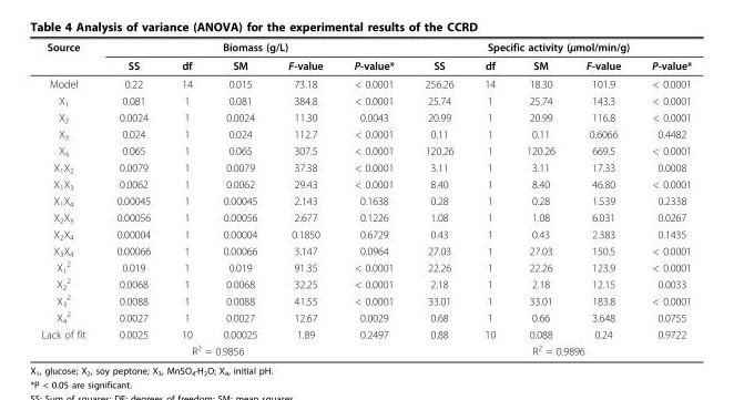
<table><tbody><tr><td rowspan="2">Source</td><td colspan="5">Biomass (g/L)</td><td colspan="5">Specific activity (μmol/min/g)</td></tr><tr><td>SS</td><td>df</td><td>SM</td><td>F-value</td><td>P-value*</td><td>SS</td><td>df</td><td>SM</td><td>F-value</td><td>P-value*</td></tr><tr><td>Model</td><td>0.22</td><td>14</td><td>0.015</td><td>73.18</td><td>&lt; 0.0001</td><td>256.26</td><td>14</td><td>18.30</td><td>101.9</td><td>&lt; 0.0001</td></tr><tr><td>X<sub>1</sub></td><td>0.081</td><td>1</td><td>0.081</td><td>384.8</td><td>&lt; 0.0001</td><td>25.74</td><td>1</td><td>25.74</td><td>143.3</td><td>&lt; 0.0001</td></tr><tr><td>X<sub>2</sub></td><td>0.0024</td><td>1</td><td>0.0024</td><td>11.30</td><td>0.0043</td><td>20.99</td><td>1</td><td>20.99</td><td>116.8</td><td>&lt; 0.0001</td></tr><tr><td>X<sub>3</sub></td><td>0.024</td><td>1</td><td>0.024</td><td>112.7</td><td>&lt; 0.0001</td><td>0.11</td><td>1</td><td>0.11</td><td>0.6066</td><td>0.4482</td></tr><tr><td>X<sub>4</sub></td><td>0.065</td><td>1</td><td>0.065</td><td>307.5</td><td>&lt; 0.0001</td><td>120.26</td><td>1</td><td>120.26</td><td>669.5</td><td>&lt; 0.0001</td></tr><tr><td>X<sub>1</sub>X<sub>2</sub></td><td>0.0079</td><td>1</td><td>0.0079</td><td>37.38</td><td>&lt; 0.0001</td><td>3.11</td><td>1</td><td>3.11</td><td>17.33</td><td>0.0008</td></tr><tr><td>X<sub>1</sub>X<sub>3</sub></td><td>0.0062</td><td>1</td><td>0.0062</td><td>29.43</td><td>&lt; 0.0001</td><td>8.40</td><td>1</td><td>8.40</td><td>46.80</td><td>&lt; 0.0001</td></tr><tr><td>X<sub>1</sub>X<sub>4</sub></td><td>0.00045</td><td>1</td><td>0.00045</td><td>2.143</td><td>0.1638</td><td>0.28</td><td>1</td><td>0.28</td><td>1.539</td><td>0.2338</td></tr><tr><td>X<sub>2</sub>X<sub>3</sub></td><td>0.00056</td><td>1</td><td>0.00056</td><td>2.677</td><td>0.1226</td><td>1.08</td><td>1</td><td>1.08</td><td>6.031</td><td>0.0267</td></tr><tr><td>X<sub>2</sub>X<sub>4</sub></td><td>0.00004</td><td>1</td><td>0.00004</td><td>0.1850</td><td>0.6729</td><td>0.43</td><td>1</td><td>0.43</td><td>2.383</td><td>0.1435</td></tr><tr><td>X<sub>3</sub>X<sub>4</sub></td><td>0.00066</td><td>1</td><td>0.00066</td><td>3.147</td><td>0.0964</td><td>27.03</td><td>1</td><td>27.03</td><td>150.5</td><td>&lt; 0.0001</td></tr><tr><td>X<sub>1</sub> <sup>2</sup></td><td>0.019</td><td>1</td><td>0.019</td><td>91.35</td><td>&lt; 0.0001</td><td>22.26</td><td>1</td><td>22.26</td><td>123.9</td><td>&lt; 0.0001</td></tr><tr><td>X<sub>2</sub> <sup>2</sup></td><td>0.0068</td><td>1</td><td>0.0068</td><td>32.25</td><td>&lt; 0.0001</td><td>2.18</td><td>1</td><td>2.18</td><td>12.15</td><td>0.0033</td></tr><tr><td>X<sub>3</sub> <sup>2</sup></td><td>0.0088</td><td>1</td><td>0.0088</td><td>41.55</td><td>&lt; 0.0001</td><td>33.01</td><td>1</td><td>33.01</td><td>183.8</td><td>&lt; 0.0001</td></tr><tr><td>X<sub>4</sub> <sup>2</sup></td><td>0.0027</td><td>1</td><td>0.0027</td><td>12.67</td><td>0.0029</td><td>0.68</td><td>1</td><td>0.66</td><td>3.648</td><td>0.0755</td></tr><tr><td>Lack of fit</td><td>0.0025</td><td>10</td><td>0.00025</td><td>1.89</td><td>0.2497</td><td>0.88</td><td>10</td><td>0.088</td><td>0.24</td><td>0.9722</td></tr><tr><td colspan="6">R<sup>2</sup> = 0.9856</td><td colspan="5">R<sup>2</sup> = 0.9896</td></tr></tbody></table>